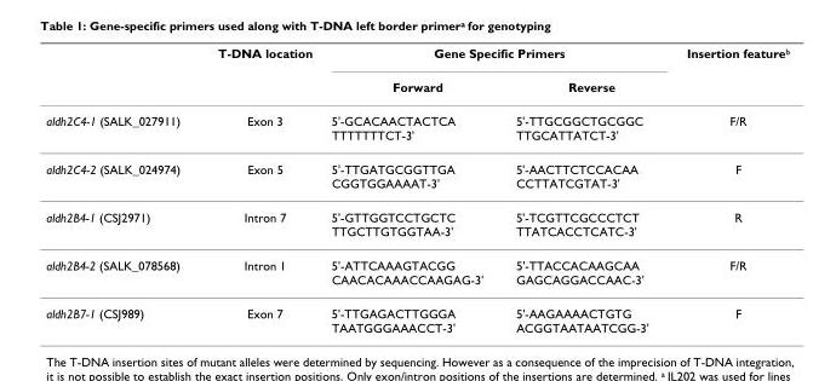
<table><thead><tr><td rowspan="2"></td><td rowspan="2">T-DNA location</td><td colspan="2">Gene Specific Primers</td><td rowspan="2">Insertion feature<sup>b</sup></td></tr><tr><td>Forward</td><td>Reverse</td></tr></thead><tbody><tr><td>aldh2C4-1 (SALK_027911)</td><td>Exon 3</td><td>5&#x27;-GCACAACTACTCA TTTTTTTCT-3&#x27;</td><td>5&#x27;-TTGCGGCTGCGGC TTGCATTATCT-3&#x27;</td><td>F/R</td></tr><tr><td>aldh2C4-2 (SALK_024974)</td><td>Exon 5</td><td>5&#x27;-TTGATGCGGTTGA CGGTGGAAAAT-3&#x27;</td><td>5&#x27;-AACTTCTCCACAA CCTTATCGTAT-3&#x27;</td><td>F</td></tr><tr><td>aldh2B4-1 (CSJ2971)</td><td>Intron 7</td><td>5&#x27;-GTTGGTCCTGCTC TTGCTTGTGGTAA-3&#x27;</td><td>5&#x27;-TCGTTCGCCCTCT TTATCACCTCATC-3&#x27;</td><td>R</td></tr><tr><td>aldh2B4-2 (SALK_078568)</td><td>Intron 1</td><td>5&#x27;-ATTCAAAGTACGG CAACACAAACCAAGAG-3&#x27;</td><td>5&#x27;-TTACCACAAGCAA GAGCAGGACCAAC-3&#x27;</td><td>F/R</td></tr><tr><td>aldh2B7-1 (CSJ989)</td><td>Exon 7</td><td>5&#x27;-TTGAGACTTGGGA TAATGGGAAACCT-3&#x27;</td><td>5&#x27;-AAGAAAACTGTG ACGGTAATAATCGG-3&#x27;</td><td>F</td></tr></tbody></table>